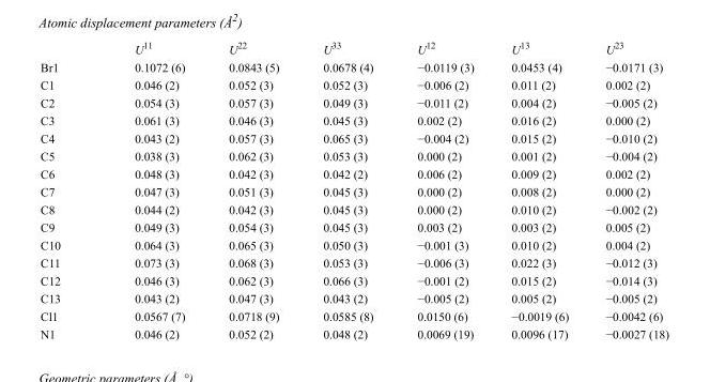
<table><thead><tr><td></td><td>U<sup>11</sup></td><td>U<sup>22</sup></td><td>U<sup>33</sup></td><td>U<sup>12</sup></td><td>U<sup>13</sup></td><td>U<sup>23</sup></td></tr></thead><tbody><tr><td>Br1</td><td>0.1072 (6)</td><td>0.0843 (5)</td><td>0.0678 (4)</td><td>−0.0119 (3)</td><td>0.0453 (4)</td><td>−0.0171 (3)</td></tr><tr><td>C1</td><td>0.046 (2)</td><td>0.052 (3)</td><td>0.052 (3)</td><td>−0.006 (2)</td><td>0.011 (2)</td><td>0.002 (2)</td></tr><tr><td>C2</td><td>0.054 (3)</td><td>0.057 (3)</td><td>0.049 (3)</td><td>−0.011 (2)</td><td>0.004 (2)</td><td>−0.005 (2)</td></tr><tr><td>C3</td><td>0.061 (3)</td><td>0.046 (3)</td><td>0.045 (3)</td><td>0.002 (2)</td><td>0.016 (2)</td><td>0.000 (2)</td></tr><tr><td>C4</td><td>0.043 (2)</td><td>0.057 (3)</td><td>0.065 (3)</td><td>−0.004 (2)</td><td>0.015 (2)</td><td>−0.010 (2)</td></tr><tr><td>C5</td><td>0.038 (3)</td><td>0.062 (3)</td><td>0.053 (3)</td><td>0.000 (2)</td><td>0.001 (2)</td><td>−0.004 (2)</td></tr><tr><td>C6</td><td>0.048 (3)</td><td>0.042 (3)</td><td>0.042 (2)</td><td>0.006 (2)</td><td>0.009 (2)</td><td>0.002 (2)</td></tr><tr><td>C7</td><td>0.047 (3)</td><td>0.051 (3)</td><td>0.045 (3)</td><td>0.000 (2)</td><td>0.008 (2)</td><td>0.000 (2)</td></tr><tr><td>C8</td><td>0.044 (2)</td><td>0.042 (3)</td><td>0.045 (3)</td><td>0.000 (2)</td><td>0.010 (2)</td><td>−0.002 (2)</td></tr><tr><td>C9</td><td>0.049 (3)</td><td>0.054 (3)</td><td>0.045 (3)</td><td>0.003 (2)</td><td>0.003 (2)</td><td>0.005 (2)</td></tr><tr><td>C10</td><td>0.064 (3)</td><td>0.065 (3)</td><td>0.050 (3)</td><td>−0.001 (3)</td><td>0.010 (2)</td><td>0.004 (2)</td></tr><tr><td>C11</td><td>0.073 (3)</td><td>0.068 (3)</td><td>0.053 (3)</td><td>−0.006 (3)</td><td>0.022 (3)</td><td>−0.012 (3)</td></tr><tr><td>C12</td><td>0.046 (3)</td><td>0.062 (3)</td><td>0.066 (3)</td><td>−0.001 (2)</td><td>0.015 (2)</td><td>−0.014 (3)</td></tr><tr><td>C13</td><td>0.043 (2)</td><td>0.047 (3)</td><td>0.043 (2)</td><td>−0.005 (2)</td><td>0.005 (2)</td><td>−0.005 (2)</td></tr><tr><td>Cl1</td><td>0.0567 (7)</td><td>0.0718 (9)</td><td>0.0585 (8)</td><td>0.0150 (6)</td><td>−0.0019 (6)</td><td>−0.0042 (6)</td></tr><tr><td>N1</td><td>0.046 (2)</td><td>0.052 (2)</td><td>0.048 (2)</td><td>0.0069 (19)</td><td>0.0096 (17)</td><td>−0.0027 (18)</td></tr></tbody></table>